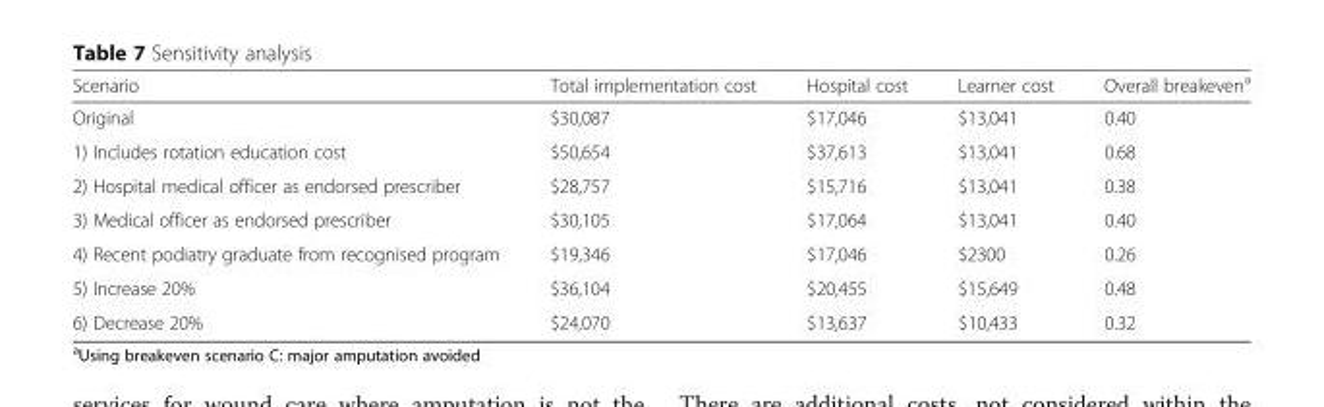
<table><thead><tr><td>Scenario</td><td>Total implementation cost</td><td>Hospital cost</td><td>Learner cost</td><td>Overall breakeven<sup>a</sup></td></tr></thead><tbody><tr><td>Original</td><td>$30,087</td><td>$17,046</td><td>$13,041</td><td>0.40</td></tr><tr><td>1) Includes rotation education cost</td><td>$50,654</td><td>$37,613</td><td>$13,041</td><td>0.68</td></tr><tr><td>2) Hospital medical officer as endorsed prescriber</td><td>$28,757</td><td>$15,716</td><td>$13,041</td><td>0.38</td></tr><tr><td>3) Medical officer as endorsed prescriber</td><td>$30,105</td><td>$17,064</td><td>$13,041</td><td>0.40</td></tr><tr><td>4) Recent podiatry graduate from recognised program</td><td>$19,346</td><td>$17,046</td><td>$2300</td><td>0.26</td></tr><tr><td>5) Increase 20%</td><td>$36,104</td><td>$20,455</td><td>$15,649</td><td>0.48</td></tr><tr><td>6) Decrease 20%</td><td>$24,070</td><td>$13,637</td><td>$10,433</td><td>0.32</td></tr></tbody></table>